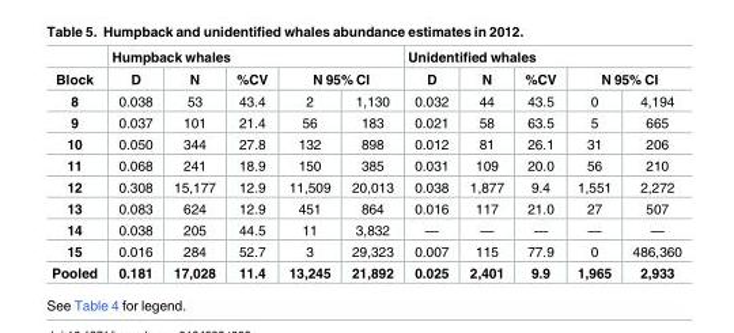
<table><thead><tr><td rowspan="3">Block 8</td><td colspan="5">Humpback whales</td><td colspan="5">Unidentified whales</td></tr><tr><td rowspan="2">D 0.038</td><td rowspan="2">N 53</td><td rowspan="2">%CV 43.4</td><td colspan="2">N 95% CI</td><td rowspan="2">D 0.032</td><td rowspan="2">N 44</td><td rowspan="2">%CV 43.5</td><td colspan="2">N 95% CI</td></tr><tr><td>2</td><td>1,130</td><td>0</td><td>4,194</td></tr></thead><tbody><tr><td>9</td><td>0.037</td><td>101</td><td>21.4</td><td>56</td><td>183</td><td>0.021</td><td>58</td><td>63.5</td><td>5</td><td>665</td></tr><tr><td>10</td><td>0.050</td><td>344</td><td>27.8</td><td>132</td><td>898</td><td>0.012</td><td>81</td><td>26.1</td><td>31</td><td>206</td></tr><tr><td>11</td><td>0.068</td><td>241</td><td>18.9</td><td>150</td><td>385</td><td>0.031</td><td>109</td><td>20.0</td><td>56</td><td>210</td></tr><tr><td>12</td><td>0.308</td><td>15,177</td><td>12.9</td><td>11,509</td><td>20,013</td><td>0.038</td><td>1,877</td><td>9.4</td><td>1,551</td><td>2,272</td></tr><tr><td>13</td><td>0.083</td><td>624</td><td>12.9</td><td>451</td><td>864</td><td>0.016</td><td>117</td><td>21.0</td><td>27</td><td>507</td></tr><tr><td>14</td><td>0.038</td><td>205</td><td>44.5</td><td>11</td><td>3,832</td><td>—</td><td>—</td><td>—</td><td>—</td><td>—</td></tr><tr><td>15</td><td>0.016</td><td>284</td><td>52.7</td><td>3</td><td>29,323</td><td>0.007</td><td>115</td><td>77.9</td><td>0</td><td>486,360</td></tr><tr><td>Pooled</td><td>0.181</td><td>17,028</td><td>11.4</td><td>13,245</td><td>21,892</td><td>0.025</td><td>2,401</td><td>9.9</td><td>1,965</td><td>2,933</td></tr></tbody></table>